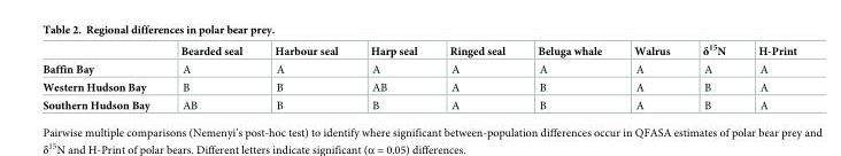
<table><thead><tr><td></td><td>Bearded seal</td><td>Harbour seal</td><td>Harp seal</td><td>Ringed seal</td><td>Beluga whale</td><td>Walrus</td><td>δ<sup>15</sup>N</td><td>H-Print</td></tr></thead><tbody><tr><td>Baffin Bay</td><td>A</td><td>A</td><td>A</td><td>A</td><td>A</td><td>A</td><td>A</td><td>A</td></tr><tr><td>Western Hudson Bay</td><td>B</td><td>B</td><td>AB</td><td>A</td><td>B</td><td>A</td><td>B</td><td>A</td></tr><tr><td>Southern Hudson Bay</td><td>AB</td><td>B</td><td>B</td><td>A</td><td>B</td><td>A</td><td>B</td><td>A</td></tr></tbody></table>